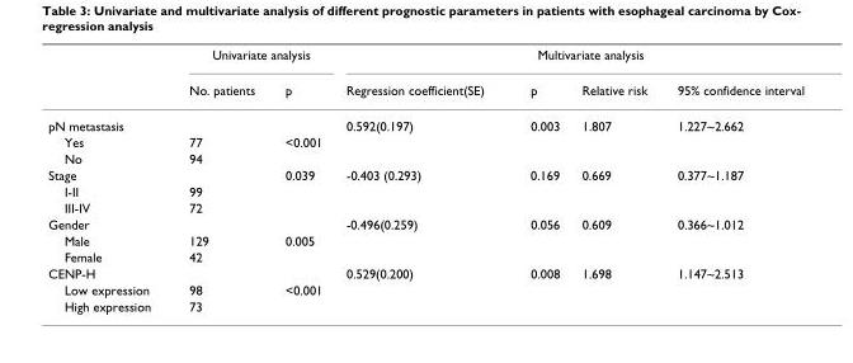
<table><thead><tr><td rowspan="2"></td><td colspan="2">Univariate analysis</td><td colspan="4">Multivariate analysis</td></tr><tr><td>No. patients</td><td>p</td><td>Regression coefficient(SE)</td><td>p</td><td>Relative risk</td><td>95% confidence interval</td></tr></thead><tbody><tr><td>pN metastasis</td><td></td><td></td><td>0.592(0.197)</td><td>0.003</td><td>1.807</td><td>1.227~2.662</td></tr><tr><td>Yes</td><td>77</td><td>&lt;0.001</td><td></td><td></td><td></td><td></td></tr><tr><td>No</td><td>94</td><td></td><td></td><td></td><td></td><td></td></tr><tr><td>Stage</td><td></td><td>0.039</td><td>-0.403 (0.293)</td><td>0.169</td><td>0.669</td><td>0.377~1.187</td></tr><tr><td>I-II</td><td>99</td><td></td><td></td><td></td><td></td><td></td></tr><tr><td>III-IV</td><td>72</td><td></td><td></td><td></td><td></td><td></td></tr><tr><td>Gender</td><td></td><td></td><td>-0.496(0.259)</td><td>0.056</td><td>0.609</td><td>0.366~1.012</td></tr><tr><td>Male</td><td>129</td><td>0.005</td><td></td><td></td><td></td><td></td></tr><tr><td>Female</td><td>42</td><td></td><td></td><td></td><td></td><td></td></tr><tr><td>CENP-H</td><td></td><td></td><td>0.529(0.200)</td><td>0.008</td><td>1.698</td><td>1.147~2.513</td></tr><tr><td>Low expression</td><td>98</td><td>&lt;0.001</td><td></td><td></td><td></td><td></td></tr><tr><td>High expression</td><td>73</td><td></td><td></td><td></td><td></td><td></td></tr></tbody></table>